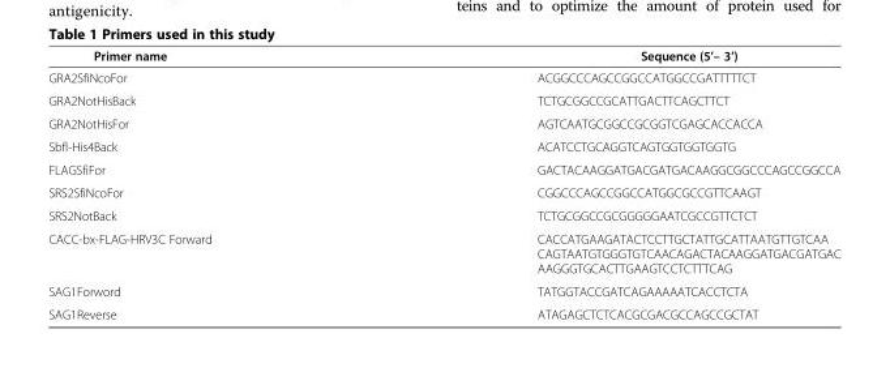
<table><thead><tr><td>Primer name</td><td>Sequence (5’– 3’)</td></tr></thead><tbody><tr><td>GRA2SfiNcoFor</td><td>ACGGCCCAGCCGGCCATGGCCGATTTTTCT</td></tr><tr><td>GRA2NotHisBack</td><td>TCTGCGGCCGCATTGACTTCAGCTTCT</td></tr><tr><td>GRA2NotHisFor</td><td>AGTCAATGCGGCCGCGGTCGAGCACCACCA</td></tr><tr><td>SbfI-His4Back</td><td>ACATCCTGCAGGTCAGTGGTGGTGGTG</td></tr><tr><td>FLAGSfiFor</td><td>GACTACAAGGATGACGATGACAAGGCGGCCCAGCCGGCCA</td></tr><tr><td>SRS2SfiNcoFor</td><td>CGGCCCAGCCGGCCATGGCGCCGTTCAAGT</td></tr><tr><td>SRS2NotBack</td><td>TCTGCGGCCGCGGGGGAATCGCCGTTCTCT</td></tr><tr><td>CACC-bx-FLAG-HRV3C Forward</td><td>CACCATGAAGATACTCCTTGCTATTGCATTAATGTTGTCAA CAGTAATGTGGGTGTCAACAGACTACAAGGATGACGATGAC AAGGGTGCACTTGAAGTCCTCTTTCAG</td></tr><tr><td>SAG1Forword</td><td>TATGGTACCGATCAGAAAAATCACCTCTA</td></tr><tr><td>SAG1Reverse</td><td>ATAGAGCTCTCACGCGACGCCAGCCGCTAT</td></tr></tbody></table>